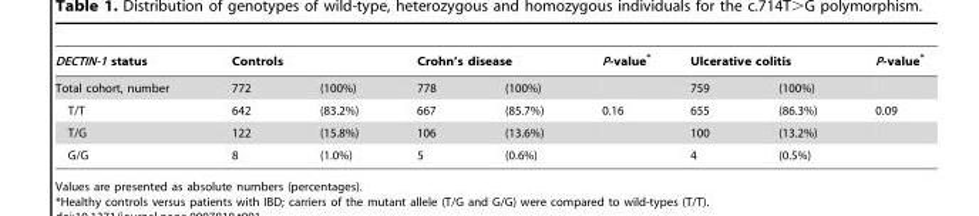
<table><thead><tr><td rowspan="2">DECTIN-1 status Total cohort, number</td><td rowspan="2">Controls 772</td><td rowspan="2">(100%)</td><td colspan="2">Crohn’s disease</td><td rowspan="2">P-value*</td><td colspan="2">Ulcerative colitis</td><td rowspan="2">P-value*</td></tr><tr><td>778</td><td>(100%)</td><td>759</td><td>(100%)</td></tr></thead><tbody><tr><td>T/T</td><td>642</td><td>(83.2%)</td><td>667</td><td>(85.7%)</td><td>0.16</td><td>655</td><td>(86.3%)</td><td>0.09</td></tr><tr><td>T/G</td><td>122</td><td>(15.8%)</td><td>106</td><td>(13.6%)</td><td></td><td>100</td><td>(13.2%)</td><td></td></tr><tr><td>G/G</td><td>8</td><td>(1.0%)</td><td>5</td><td>(0.6%)</td><td></td><td>4</td><td>(0.5%)</td><td></td></tr></tbody></table>